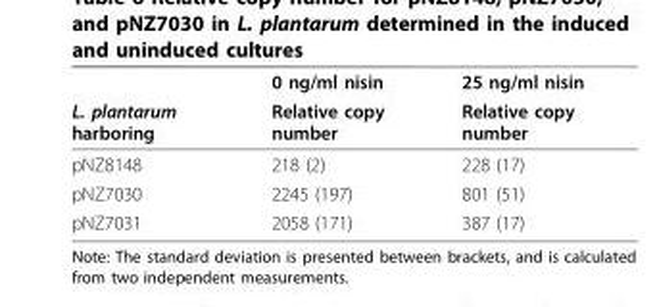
<table><thead><tr><td rowspan="2">L. plantarum harboring</td><td rowspan="2">0 ng/ml nisin Relative copy number</td><td rowspan="2">25 ng/ml nisin Relative copy number</td></tr><tr></tr></thead><tbody><tr><td>pNZ8148</td><td>218 (2)</td><td>228 (17)</td></tr><tr><td>pNZ7030</td><td>2245 (197)</td><td>801 (51)</td></tr><tr><td>pNZ7031</td><td>2058 (171)</td><td>387 (17)</td></tr></tbody></table>